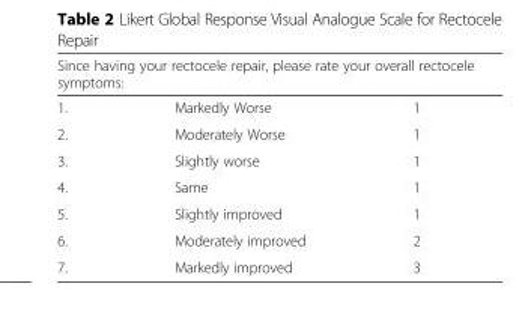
<table><thead><tr><td colspan="3">Since having your rectocele repair, please rate your overall rectocele symptoms:</td></tr><tr><td>1.</td><td>Markedly Worse</td><td>1</td></tr></thead><tbody><tr><td>2.</td><td>Moderately Worse</td><td>1</td></tr><tr><td>3.</td><td>Slightly worse</td><td>1</td></tr><tr><td>4.</td><td>Same</td><td>1</td></tr><tr><td>5.</td><td>Slightly improved</td><td>1</td></tr><tr><td>6.</td><td>Moderately improved</td><td>2</td></tr><tr><td>7.</td><td>Markedly improved</td><td>3</td></tr></tbody></table>